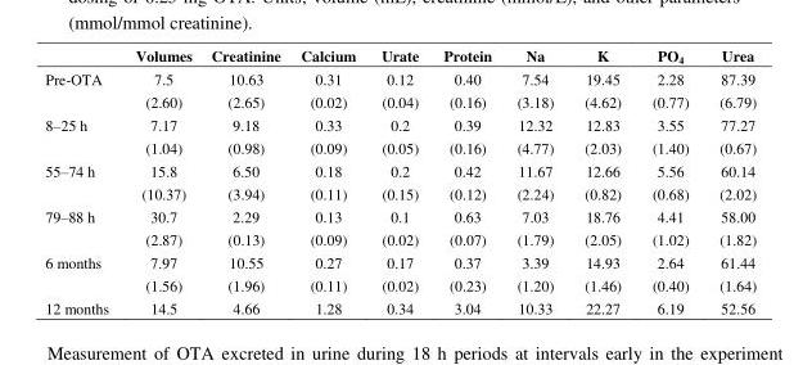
<table><thead><tr><td></td><td>Volumes</td><td>Creatinine</td><td>Calcium</td><td>Urate</td><td>Protein</td><td>Na</td><td>K</td><td>PO<sub>4</sub></td><td>Urea</td></tr></thead><tbody><tr><td>Pre-OTA</td><td>7.5 (2.60)</td><td>10.63 (2.65)</td><td>0.31 (0.02)</td><td>0.12 (0.04)</td><td>0.40 (0.16)</td><td>7.54 (3.18)</td><td>19.45 (4.62)</td><td>2.28 (0.77)</td><td>87.39 (6.79)</td></tr><tr><td>8–25 h</td><td>7.17 (1.04)</td><td>9.18 (0.98)</td><td>0.33 (0.09)</td><td>0.2 (0.05)</td><td>0.39 (0.16)</td><td>12.32 (4.77)</td><td>12.83 (2.03)</td><td>3.55 (1.40)</td><td>77.27 (0.67)</td></tr><tr><td>55–74 h</td><td>15.8 (10.37)</td><td>6.50 (3.94)</td><td>0.18 (0.11)</td><td>0.2 (0.15)</td><td>0.42 (0.12)</td><td>11.67 (2.24)</td><td>12.66 (0.82)</td><td>5.56 (0.68)</td><td>60.14 (2.02)</td></tr><tr><td>79–88 h</td><td>30.7 (2.87)</td><td>2.29 (0.13)</td><td>0.13 (0.09)</td><td>0.1 (0.02)</td><td>0.63 (0.07)</td><td>7.03 (1.79)</td><td>18.76 (2.05)</td><td>4.41 (1.02)</td><td>58.00 (1.82)</td></tr><tr><td>6 months</td><td>7.97 (1.56)</td><td>10.55 (1.96)</td><td>0.27 (0.11)</td><td>0.17 (0.02)</td><td>0.37 (0.23)</td><td>3.39 (1.20)</td><td>14.93 (1.46)</td><td>2.64 (0.40)</td><td>61.44 (1.64)</td></tr><tr><td>12 months</td><td>14.5</td><td>4.66</td><td>1.28</td><td>0.34</td><td>3.04</td><td>10.33</td><td>22.27</td><td>6.19</td><td>52.56</td></tr></tbody></table>